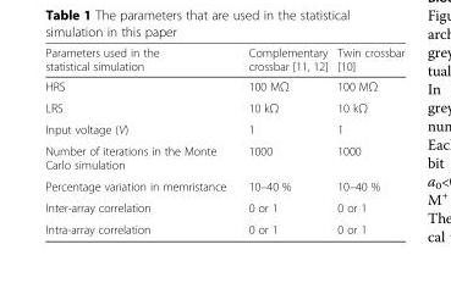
<table><thead><tr><td>Parameters used in the statistical simulation</td><td>Complementary crossbar [11, 12]</td><td>Twin crossbar [10]</td></tr></thead><tbody><tr><td>HRS</td><td>100 MΩ</td><td>100 MΩ</td></tr><tr><td>LRS</td><td>10 kΩ</td><td>10 kΩ</td></tr><tr><td>Input voltage (V)</td><td>1</td><td>1</td></tr><tr><td>Number of iterations in the Monte Carlo simulation</td><td>1000</td><td>1000</td></tr><tr><td>Percentage variation in memristance</td><td>10–40 %</td><td>10–40 %</td></tr><tr><td>Inter-array correlation</td><td>0 or 1</td><td>0 or 1</td></tr><tr><td>Intra-array correlation</td><td>0 or 1</td><td>0 or 1</td></tr></tbody></table>